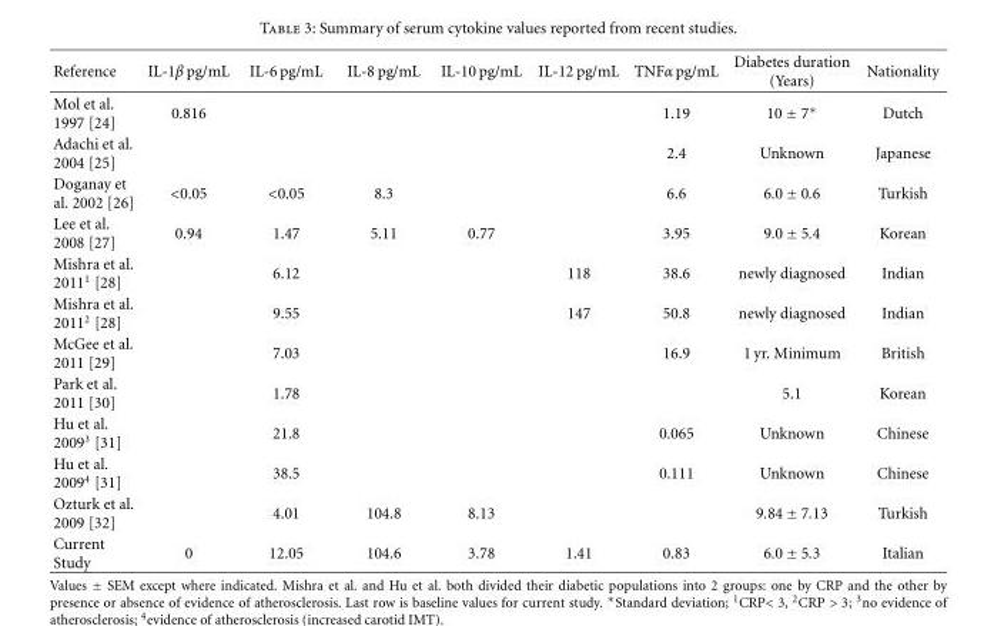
<table><thead><tr><td>Reference</td><td>IL-1β pg/mL</td><td>IL-6 pg/mL</td><td>IL-8 pg/mL</td><td>IL-10 pg/mL</td><td>IL-12 pg/mL</td><td>TNFα pg/mL</td><td>Diabetes duration (Years)</td><td>Nationality</td></tr></thead><tbody><tr><td>Mol et al. 1997 [24]</td><td>0.816</td><td></td><td></td><td></td><td></td><td>1.19</td><td>10 ± 7∗</td><td>Dutch</td></tr><tr><td>Adachi et al. 2004 [25]</td><td></td><td></td><td></td><td></td><td></td><td>2.4</td><td>Unknown</td><td>Japanese</td></tr><tr><td>Doganay et al. 2002 [26]</td><td>&lt;0.05</td><td>&lt;0.05</td><td>8.3</td><td></td><td></td><td>6.6</td><td>6.0 ± 0.6</td><td>Turkish</td></tr><tr><td>Lee et al. 2008 [27]</td><td>0.94</td><td>1.47</td><td>5.11</td><td>0.77</td><td></td><td>3.95</td><td>9.0 ± 5.4</td><td>Korean</td></tr><tr><td>Mishra et al. 2011<sup>1</sup> [28]</td><td></td><td>6.12</td><td></td><td></td><td>118</td><td>38.6</td><td>newly diagnosed</td><td>Indian</td></tr><tr><td>Mishra et al. 2011<sup>2</sup> [28]</td><td></td><td>9.55</td><td></td><td></td><td>147</td><td>50.8</td><td>newly diagnosed</td><td>Indian</td></tr><tr><td>McGee et al. 2011 [29]</td><td></td><td>7.03</td><td></td><td></td><td></td><td>16.9</td><td>1 yr. Minimum</td><td>British</td></tr><tr><td>Park et al. 2011 [30]</td><td></td><td>1.78</td><td></td><td></td><td></td><td></td><td>5.1</td><td>Korean</td></tr><tr><td>Hu et al. 2009<sup>3</sup> [31]</td><td></td><td>21.8</td><td></td><td></td><td></td><td>0.065</td><td>Unknown</td><td>Chinese</td></tr><tr><td>Hu et al. 2009<sup>4</sup> [31]</td><td></td><td>38.5</td><td></td><td></td><td></td><td>0.111</td><td>Unknown</td><td>Chinese</td></tr><tr><td>Ozturk et al. 2009 [32]</td><td></td><td>4.01</td><td>104.8</td><td>8.13</td><td></td><td></td><td>9.84 ± 7.13</td><td>Turkish</td></tr><tr><td>Current Study</td><td>0</td><td>12.05</td><td>104.6</td><td>3.78</td><td>1.41</td><td>0.83</td><td>6.0 ± 5.3</td><td>Italian</td></tr></tbody></table>